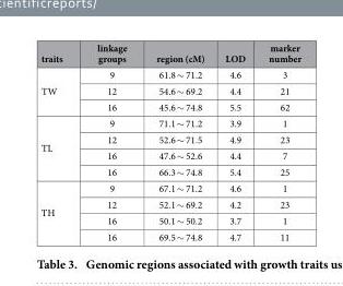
<table><thead><tr><td>traits</td><td>linkage groups</td><td>region (cM)</td><td>LOD</td><td>marker number</td></tr></thead><tbody><tr><td rowspan="3">TW</td><td>9</td><td>61.8 ∼ 71.2</td><td>4.6</td><td>3</td></tr><tr><td>12</td><td>54.6 ∼ 69.2</td><td>4.4</td><td>21</td></tr><tr><td>16</td><td>45.6 ∼ 74.8</td><td>5.5</td><td>62</td></tr><tr><td rowspan="4">TL</td><td>9</td><td>71.1 ∼ 71.2</td><td>3.9</td><td>1</td></tr><tr><td>12</td><td>52.6 ∼ 71.5</td><td>4.9</td><td>23</td></tr><tr><td>16</td><td>47.6 ∼ 52.6</td><td>4.4</td><td>7</td></tr><tr><td>16</td><td>66.3 ∼ 74.8</td><td>5.4</td><td>25</td></tr><tr><td rowspan="4">TH</td><td>9</td><td>67.1 ∼ 71.2</td><td>4.6</td><td>1</td></tr><tr><td>12</td><td>52.1 ∼ 69.2</td><td>4.2</td><td>23</td></tr><tr><td>16</td><td>50.1 ∼ 50.2</td><td>3.7</td><td>1</td></tr><tr><td>16</td><td>69.5 ∼ 74.8</td><td>4.7</td><td>11</td></tr></tbody></table>